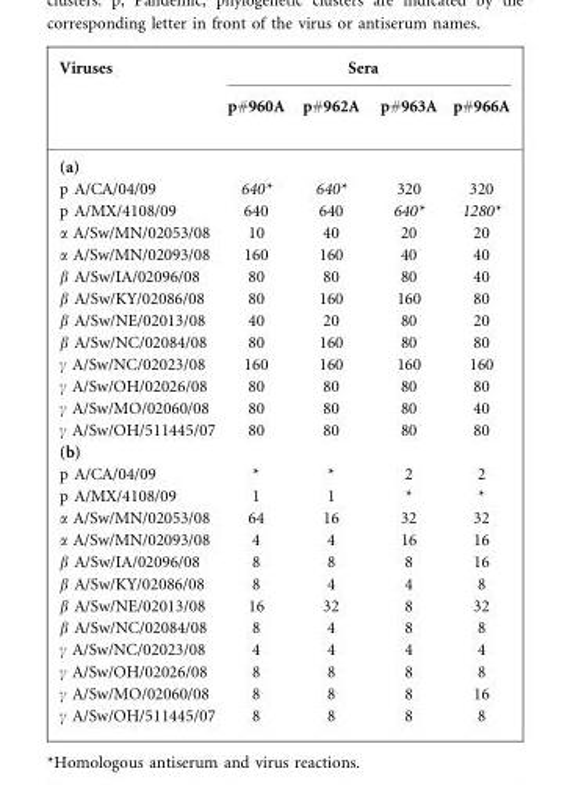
<table><thead><tr><td rowspan="2">Viruses</td><td colspan="4">Sera</td></tr><tr><td>p#960A</td><td>p#962A</td><td>p#963A</td><td>p#966A</td></tr></thead><tbody><tr><td colspan="5">(a)</td></tr><tr><td>p A/CA/04/09</td><td>640*</td><td>640*</td><td>320</td><td>320</td></tr><tr><td>p A/MX/4108/09</td><td>640</td><td>640</td><td>640*</td><td>1280*</td></tr><tr><td>α A/Sw/MN/02053/08</td><td>10</td><td>40</td><td>20</td><td>20</td></tr><tr><td>α A/Sw/MN/02093/08</td><td>160</td><td>160</td><td>40</td><td>40</td></tr><tr><td>β A/Sw/IA/02096/08</td><td>80</td><td>80</td><td>80</td><td>40</td></tr><tr><td>β A/Sw/KY/02086/08</td><td>80</td><td>160</td><td>160</td><td>80</td></tr><tr><td>β A/Sw/NE/02013/08</td><td>40</td><td>20</td><td>80</td><td>20</td></tr><tr><td>β A/Sw/NC/02084/08</td><td>80</td><td>160</td><td>80</td><td>80</td></tr><tr><td>γ A/Sw/NC/02023/08</td><td>160</td><td>160</td><td>160</td><td>160</td></tr><tr><td>γ A/Sw/OH/02026/08</td><td>80</td><td>80</td><td>80</td><td>80</td></tr><tr><td>γ A/Sw/MO/02060/08</td><td>80</td><td>80</td><td>80</td><td>40</td></tr><tr><td>γ A/Sw/OH/511445/07</td><td>80</td><td>80</td><td>80</td><td>80</td></tr><tr><td colspan="5">(b)</td></tr><tr><td>p A/CA/04/09</td><td>*</td><td>*</td><td>2</td><td>2</td></tr><tr><td>p A/MX/4108/09</td><td>1</td><td>1</td><td>*</td><td>*</td></tr><tr><td>α A/Sw/MN/02053/08</td><td>64</td><td>16</td><td>32</td><td>32</td></tr><tr><td>α A/Sw/MN/02093/08</td><td>4</td><td>4</td><td>16</td><td>16</td></tr><tr><td>β A/Sw/IA/02096/08</td><td>8</td><td>8</td><td>8</td><td>16</td></tr><tr><td>β A/Sw/KY/02086/08</td><td>8</td><td>4</td><td>4</td><td>8</td></tr><tr><td>β A/Sw/NE/02013/08</td><td>16</td><td>32</td><td>8</td><td>32</td></tr><tr><td>β A/Sw/NC/02084/08</td><td>8</td><td>4</td><td>8</td><td>8</td></tr><tr><td>γ A/Sw/NC/02023/08</td><td>4</td><td>4</td><td>4</td><td>4</td></tr><tr><td>γ A/Sw/OH/02026/08</td><td>8</td><td>8</td><td>8</td><td>8</td></tr><tr><td>γ A/Sw/MO/02060/08</td><td>8</td><td>8</td><td>8</td><td>16</td></tr><tr><td>γ A/Sw/OH/511445/07</td><td>8</td><td>8</td><td>8</td><td>8</td></tr></tbody></table>